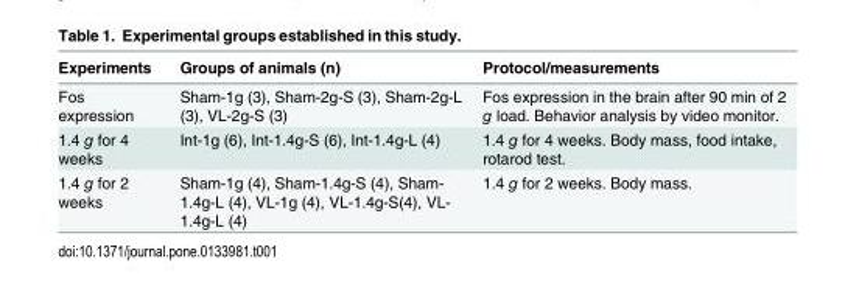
<table><thead><tr><td>Experiments</td><td>Groups of animals (n)</td><td>Protocol/measurements</td></tr></thead><tbody><tr><td>Fos expression</td><td>Sham-1g (3), Sham-2g-S (3), Sham-2g-L (3), VL-2g-S (3)</td><td>Fos expression in the brain after 90 min of 2 g load. Behavior analysis by video monitor.</td></tr><tr><td>1.4 g for 4 weeks</td><td>Int-1g (6), Int-1.4g-S (6), Int-1.4g-L (4)</td><td>1.4 g for 4 weeks. Body mass, food intake, rotarod test.</td></tr><tr><td>1.4 g for 2 weeks</td><td>Sham-1g (4), Sham-1.4g-S (4), Sham- 1.4g-L (4), VL-1g (4), VL-1.4g-S(4), VL- 1.4g-L (4)</td><td>1.4 g for 2 weeks. Body mass.</td></tr></tbody></table>